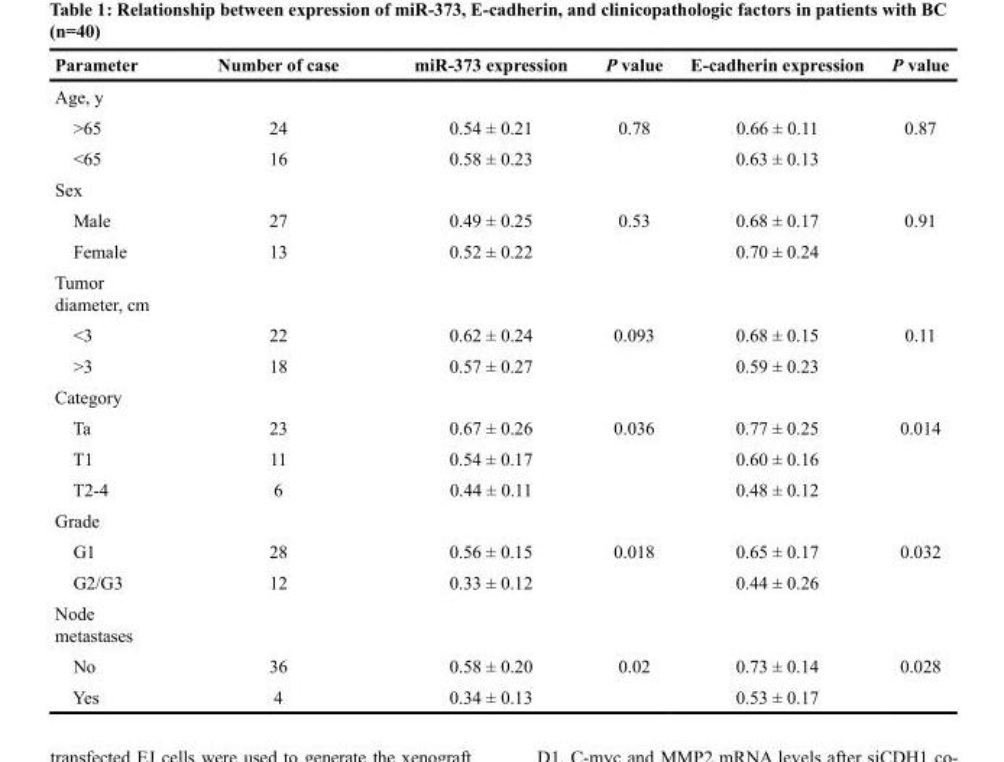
<table><thead><tr><td>Parameter</td><td>Number of case</td><td>miR-373 expression</td><td>P value</td><td>E-cadherin expression</td><td>P value</td></tr></thead><tbody><tr><td colspan="6">Age, y</td></tr><tr><td>&gt;65</td><td>24</td><td>0.54 ± 0.21</td><td>0.78</td><td>0.66 ± 0.11</td><td>0.87</td></tr><tr><td>&lt;65</td><td>16</td><td>0.58 ± 0.23</td><td></td><td>0.63 ± 0.13</td><td></td></tr><tr><td colspan="6">Sex</td></tr><tr><td>Male</td><td>27</td><td>0.49 ± 0.25</td><td>0.53</td><td>0.68 ± 0.17</td><td>0.91</td></tr><tr><td>Female</td><td>13</td><td>0.52 ± 0.22</td><td></td><td>0.70 ± 0.24</td><td></td></tr><tr><td colspan="6">Tumor diameter, cm</td></tr><tr><td>&lt;3</td><td>22</td><td>0.62 ± 0.24</td><td>0.093</td><td>0.68 ± 0.15</td><td>0.11</td></tr><tr><td>&gt;3</td><td>18</td><td>0.57 ± 0.27</td><td></td><td>0.59 ± 0.23</td><td></td></tr><tr><td colspan="6">Category</td></tr><tr><td>Ta</td><td>23</td><td>0.67 ± 0.26</td><td>0.036</td><td>0.77 ± 0.25</td><td>0.014</td></tr><tr><td>T1</td><td>11</td><td>0.54 ± 0.17</td><td></td><td>0.60 ± 0.16</td><td></td></tr><tr><td>T2-4</td><td>6</td><td>0.44 ± 0.11</td><td></td><td>0.48 ± 0.12</td><td></td></tr><tr><td colspan="6">Grade</td></tr><tr><td>G1</td><td>28</td><td>0.56 ± 0.15</td><td>0.018</td><td>0.65 ± 0.17</td><td>0.032</td></tr><tr><td>G2/G3</td><td>12</td><td>0.33 ± 0.12</td><td></td><td>0.44 ± 0.26</td><td></td></tr><tr><td colspan="6">Node metastases</td></tr><tr><td>No</td><td>36</td><td>0.58 ± 0.20</td><td>0.02</td><td>0.73 ± 0.14</td><td>0.028</td></tr><tr><td>Yes</td><td>4</td><td>0.34 ± 0.13</td><td></td><td>0.53 ± 0.17</td><td></td></tr></tbody></table>